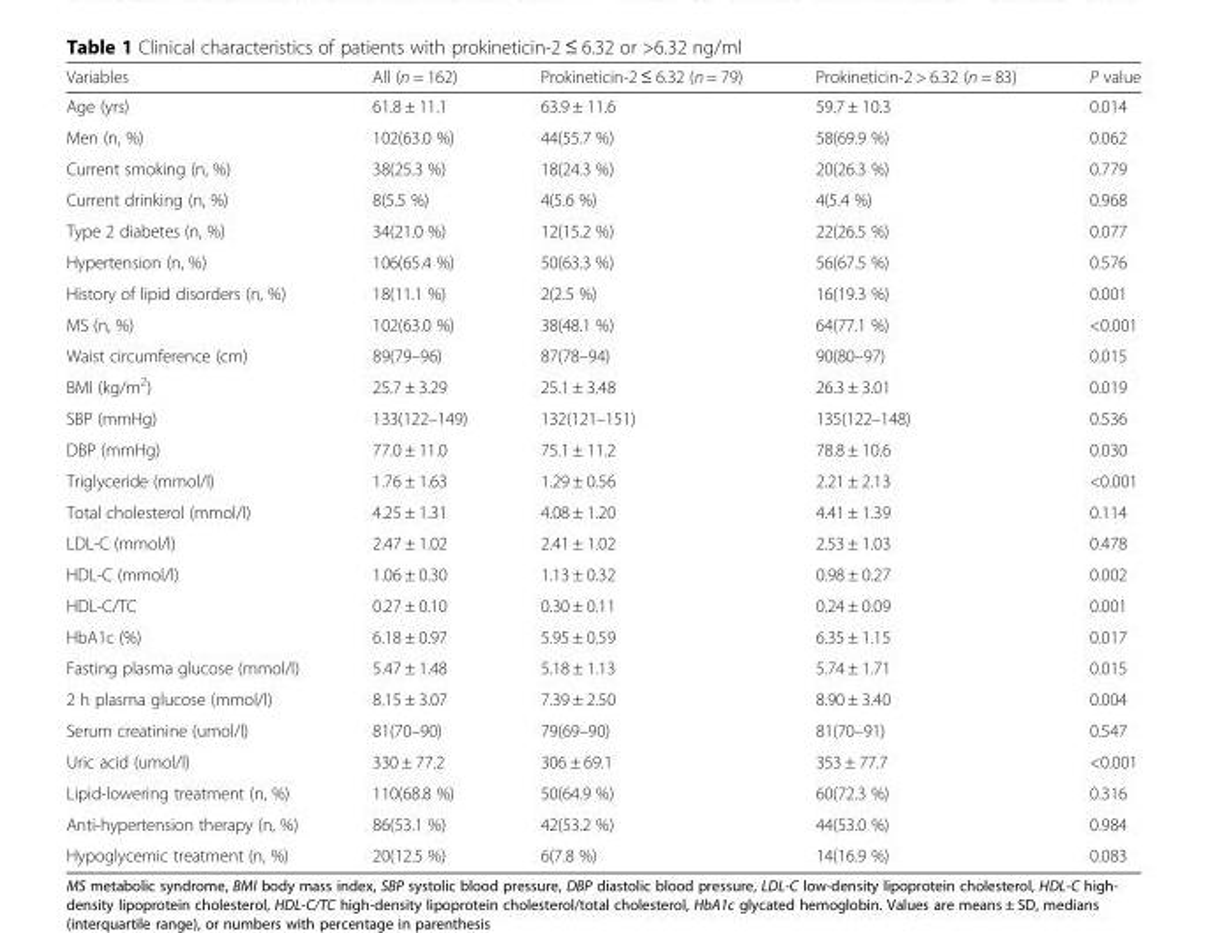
<table><thead><tr><td>Variables</td><td>All (n = 162)</td><td>Prokineticin-2 ≤ 6.32 (n = 79)</td><td>Prokineticin-2 &gt; 6.32 (n = 83)</td><td>P value</td></tr></thead><tbody><tr><td>Age (yrs)</td><td>61.8 ± 11.1</td><td>63.9 ± 11.6</td><td>59.7 ± 10.3</td><td>0.014</td></tr><tr><td>Men (n, %)</td><td>102(63.0 %)</td><td>44(55.7 %)</td><td>58(69.9 %)</td><td>0.062</td></tr><tr><td>Current smoking (n, %)</td><td>38(25.3 %)</td><td>18(24.3 %)</td><td>20(26.3 %)</td><td>0.779</td></tr><tr><td>Current drinking (n, %)</td><td>8(5.5 %)</td><td>4(5.6 %)</td><td>4(5.4 %)</td><td>0.968</td></tr><tr><td>Type 2 diabetes (n, %)</td><td>34(21.0 %)</td><td>12(15.2 %)</td><td>22(26.5 %)</td><td>0.077</td></tr><tr><td>Hypertension (n, %)</td><td>106(65.4 %)</td><td>50(63.3 %)</td><td>56(67.5 %)</td><td>0.576</td></tr><tr><td>History of lipid disorders (n, %)</td><td>18(11.1 %)</td><td>2(2.5 %)</td><td>16(19.3 %)</td><td>0.001</td></tr><tr><td>MS (n, %)</td><td>102(63.0 %)</td><td>38(48.1 %)</td><td>64(77.1 %)</td><td>&lt;0.001</td></tr><tr><td>Waist circumference (cm)</td><td>89(79–96)</td><td>87(78–94)</td><td>90(80–97)</td><td>0.015</td></tr><tr><td>BMI (kg/m<sup>2</sup>)</td><td>25.7 ± 3.29</td><td>25.1 ± 3.48</td><td>26.3 ± 3.01</td><td>0.019</td></tr><tr><td>SBP (mmHg)</td><td>133(122–149)</td><td>132(121–151)</td><td>135(122–148)</td><td>0.536</td></tr><tr><td>DBP (mmHg)</td><td>77.0 ± 11.0</td><td>75.1 ± 11.2</td><td>78.8 ± 10.6</td><td>0.030</td></tr><tr><td>Triglyceride (mmol/l)</td><td>1.76 ± 1.63</td><td>1.29 ± 0.56</td><td>2.21 ± 2.13</td><td>&lt;0.001</td></tr><tr><td>Total cholesterol (mmol/l)</td><td>4.25 ± 1.31</td><td>4.08 ± 1.20</td><td>4.41 ± 1.39</td><td>0.114</td></tr><tr><td>LDL-C (mmol/l)</td><td>2.47 ± 1.02</td><td>2.41 ± 1.02</td><td>2.53 ± 1.03</td><td>0.478</td></tr><tr><td>HDL-C (mmol/l)</td><td>1.06 ± 0.30</td><td>1.13 ± 0.32</td><td>0.98 ± 0.27</td><td>0.002</td></tr><tr><td>HDL-C/TC</td><td>0.27 ± 0.10</td><td>0.30 ± 0.11</td><td>0.24 ± 0.09</td><td>0.001</td></tr><tr><td>HbA1c (%)</td><td>6.18 ± 0.97</td><td>5.95 ± 0.59</td><td>6.35 ± 1.15</td><td>0.017</td></tr><tr><td>Fasting plasma glucose (mmol/l)</td><td>5.47 ± 1.48</td><td>5.18 ± 1.13</td><td>5.74 ± 1.71</td><td>0.015</td></tr><tr><td>2 h plasma glucose (mmol/l)</td><td>8.15 ± 3.07</td><td>7.39 ± 2.50</td><td>8.90 ± 3.40</td><td>0.004</td></tr><tr><td>Serum creatinine (umol/l)</td><td>81(70–90)</td><td>79(69–90)</td><td>81(70–91)</td><td>0.547</td></tr><tr><td>Uric acid (umol/l)</td><td>330 ± 77.2</td><td>306 ± 69.1</td><td>353 ± 77.7</td><td>&lt;0.001</td></tr><tr><td>Lipid-lowering treatment (n, %)</td><td>110(68.8 %)</td><td>50(64.9 %)</td><td>60(72.3 %)</td><td>0.316</td></tr><tr><td>Anti-hypertension therapy (n, %)</td><td>86(53.1 %)</td><td>42(53.2 %)</td><td>44(53.0 %)</td><td>0.984</td></tr><tr><td>Hypoglycemic treatment (n, %)</td><td>20(12.5 %)</td><td>6(7.8 %)</td><td>14(16.9 %)</td><td>0.083</td></tr></tbody></table>